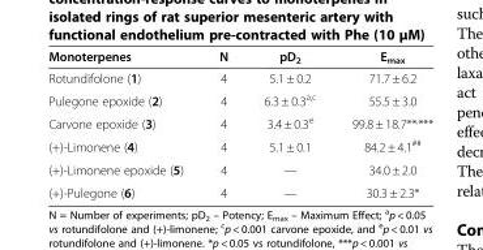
<table><thead><tr><td>Monoterpenes</td><td>N</td><td>pD<sub>2</sub></td><td>E<sub>max</sub></td></tr></thead><tbody><tr><td>Rotundifolone (1)</td><td>4</td><td>5.1 ± 0.2</td><td>71.7 ± 6.2</td></tr><tr><td>Pulegone epoxide (2)</td><td>4</td><td>6.3 ± 0.3<sup>a,c</sup></td><td>55.5 ± 3.0</td></tr><tr><td>Carvone epoxide (3)</td><td>4</td><td>3.4 ± 0.3<sup>e</sup></td><td>99.8 ± 18.7**<sup>,</sup>***</td></tr><tr><td>(+)-Limonene (4)</td><td>4</td><td>5.1 ± 0.1</td><td>84.2 ± 4.1<sup>##</sup></td></tr><tr><td>(+)-Limonene epoxide (5)</td><td>4</td><td>—</td><td>34.0 ± 2.0</td></tr><tr><td>(+)-Pulegone (6)</td><td>4</td><td>—</td><td>30.3 ± 2.3*</td></tr></tbody></table>